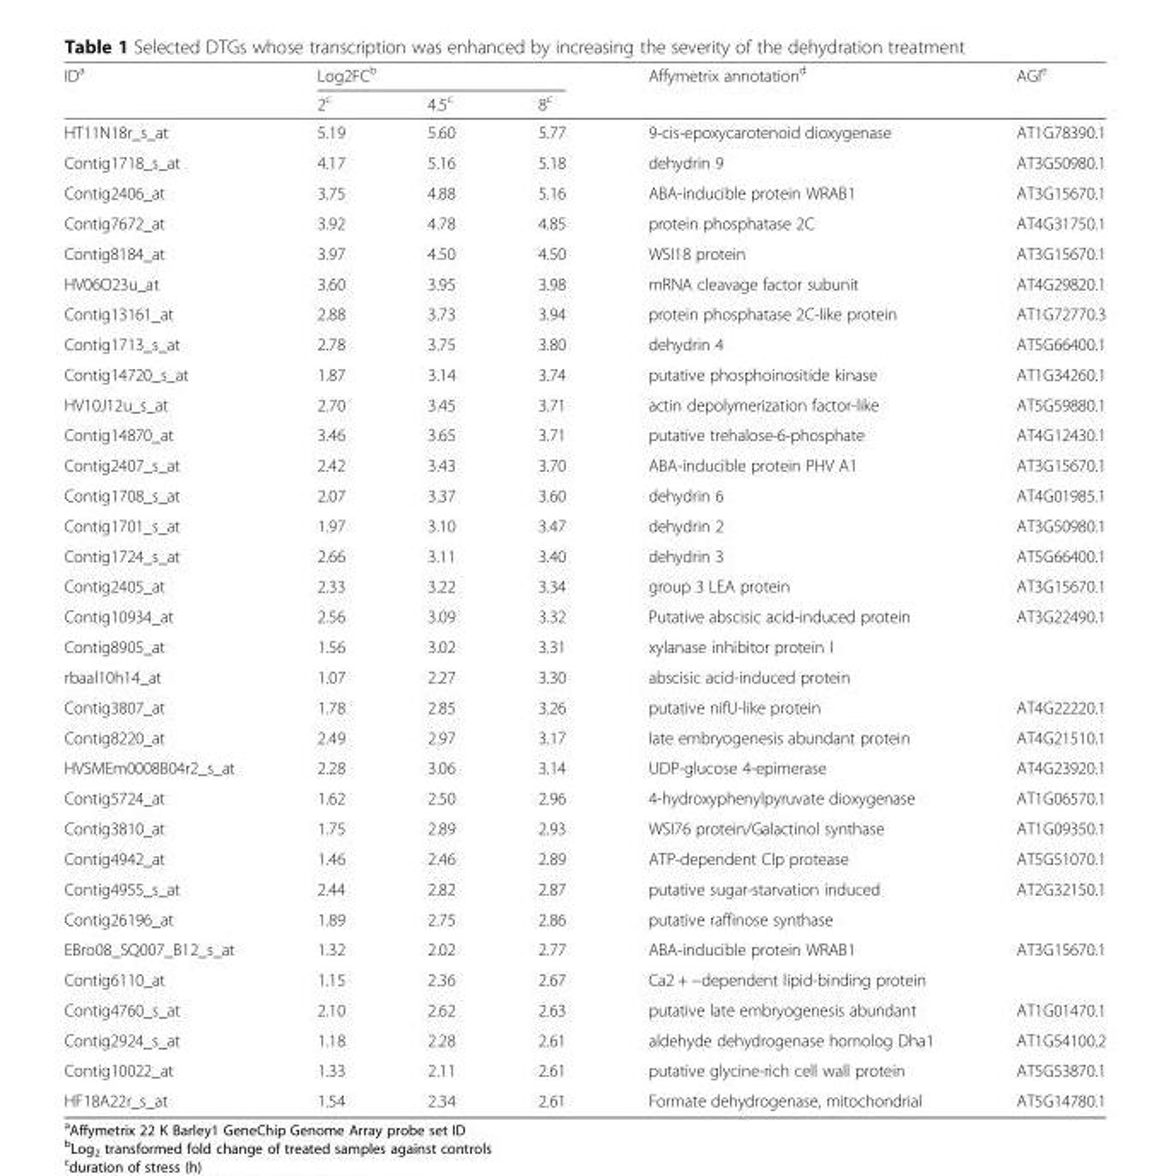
<table><thead><tr><td rowspan="2">ID<sup>a</sup></td><td colspan="3">Log2FC<sup>b</sup></td><td rowspan="2">Affymetrix annotation<sup>d</sup></td><td rowspan="2">AGI<sup>e</sup></td></tr><tr><td>2<sup>c</sup></td><td>4.5<sup>c</sup></td><td>8<sup>c</sup></td></tr></thead><tbody><tr><td>HT11N18r_s_at</td><td>5.19</td><td>5.60</td><td>5.77</td><td>9-cis-epoxycarotenoid dioxygenase</td><td>AT1G78390.1</td></tr><tr><td>Contig1718_s_at</td><td>4.17</td><td>5.16</td><td>5.18</td><td>dehydrin 9</td><td>AT3G50980.1</td></tr><tr><td>Contig2406_at</td><td>3.75</td><td>4.88</td><td>5.16</td><td>ABA-inducible protein WRAB1</td><td>AT3G15670.1</td></tr><tr><td>Contig7672_at</td><td>3.92</td><td>4.78</td><td>4.85</td><td>protein phosphatase 2C</td><td>AT4G31750.1</td></tr><tr><td>Contig8184_at</td><td>3.97</td><td>4.50</td><td>4.50</td><td>WSI18 protein</td><td>AT3G15670.1</td></tr><tr><td>HV06O23u_at</td><td>3.60</td><td>3.95</td><td>3.98</td><td>mRNA cleavage factor subunit</td><td>AT4G29820.1</td></tr><tr><td>Contig13161_at</td><td>2.88</td><td>3.73</td><td>3.94</td><td>protein phosphatase 2C-like protein</td><td>AT1G72770.3</td></tr><tr><td>Contig1713_s_at</td><td>2.78</td><td>3.75</td><td>3.80</td><td>dehydrin 4</td><td>AT5G66400.1</td></tr><tr><td>Contig14720_s_at</td><td>1.87</td><td>3.14</td><td>3.74</td><td>putative phosphoinositide kinase</td><td>AT1G34260.1</td></tr><tr><td>HV10J12u_s_at</td><td>2.70</td><td>3.45</td><td>3.71</td><td>actin depolymerization factor-like</td><td>AT5G59880.1</td></tr><tr><td>Contig14870_at</td><td>3.46</td><td>3.65</td><td>3.71</td><td>putative trehalose-6-phosphate</td><td>AT4G12430.1</td></tr><tr><td>Contig2407_s_at</td><td>2.42</td><td>3.43</td><td>3.70</td><td>ABA-inducible protein PHV A1</td><td>AT3G15670.1</td></tr><tr><td>Contig1708_s_at</td><td>2.07</td><td>3.37</td><td>3.60</td><td>dehydrin 6</td><td>AT4G01985.1</td></tr><tr><td>Contig1701_s_at</td><td>1.97</td><td>3.10</td><td>3.47</td><td>dehydrin 2</td><td>AT3G50980.1</td></tr><tr><td>Contig1724_s_at</td><td>2.66</td><td>3.11</td><td>3.40</td><td>dehydrin 3</td><td>AT5G66400.1</td></tr><tr><td>Contig2405_at</td><td>2.33</td><td>3.22</td><td>3.34</td><td>group 3 LEA protein</td><td>AT3G15670.1</td></tr><tr><td>Contig10934_at</td><td>2.56</td><td>3.09</td><td>3.32</td><td>Putative abscisic acid-induced protein</td><td>AT3G22490.1</td></tr><tr><td>Contig8905_at</td><td>1.56</td><td>3.02</td><td>3.31</td><td>xylanase inhibitor protein I</td><td></td></tr><tr><td>rbaal10h14_at</td><td>1.07</td><td>2.27</td><td>3.30</td><td>abscisic acid-induced protein</td><td></td></tr><tr><td>Contig3807_at</td><td>1.78</td><td>2.85</td><td>3.26</td><td>putative nifU-like protein</td><td>AT4G22220.1</td></tr><tr><td>Contig8220_at</td><td>2.49</td><td>2.97</td><td>3.17</td><td>late embryogenesis abundant protein</td><td>AT4G21510.1</td></tr><tr><td>HVSMEm0008B04r2_s_at</td><td>2.28</td><td>3.06</td><td>3.14</td><td>UDP-glucose 4-epimerase</td><td>AT4G23920.1</td></tr><tr><td>Contig5724_at</td><td>1.62</td><td>2.50</td><td>2.96</td><td>4-hydroxyphenylpyruvate dioxygenase</td><td>AT1G06570.1</td></tr><tr><td>Contig3810_at</td><td>1.75</td><td>2.89</td><td>2.93</td><td>WSI76 protein/Galactinol synthase</td><td>AT1G09350.1</td></tr><tr><td>Contig4942_at</td><td>1.46</td><td>2.46</td><td>2.89</td><td>ATP-dependent Clp protease</td><td>AT5G51070.1</td></tr><tr><td>Contig4955_s_at</td><td>2.44</td><td>2.82</td><td>2.87</td><td>putative sugar-starvation induced</td><td>AT2G32150.1</td></tr><tr><td>Contig26196_at</td><td>1.89</td><td>2.75</td><td>2.86</td><td>putative raffinose synthase</td><td></td></tr><tr><td>EBro08_SQ007_B12_s_at</td><td>1.32</td><td>2.02</td><td>2.77</td><td>ABA-inducible protein WRAB1</td><td>AT3G15670.1</td></tr><tr><td>Contig6110_at</td><td>1.15</td><td>2.36</td><td>2.67</td><td>Ca2 + −dependent lipid-binding protein</td><td></td></tr><tr><td>Contig4760_s_at</td><td>2.10</td><td>2.62</td><td>2.63</td><td>putative late embryogenesis abundant</td><td>AT1G01470.1</td></tr><tr><td>Contig2924_s_at</td><td>1.18</td><td>2.28</td><td>2.61</td><td>aldehyde dehydrogenase homolog Dha1</td><td>AT1G54100.2</td></tr><tr><td>Contig10022_at</td><td>1.33</td><td>2.11</td><td>2.61</td><td>putative glycine-rich cell wall protein</td><td>AT5G53870.1</td></tr><tr><td>HF18A22r_s_at</td><td>1.54</td><td>2.34</td><td>2.61</td><td>Formate dehydrogenase, mitochondrial</td><td>AT5G14780.1</td></tr></tbody></table>